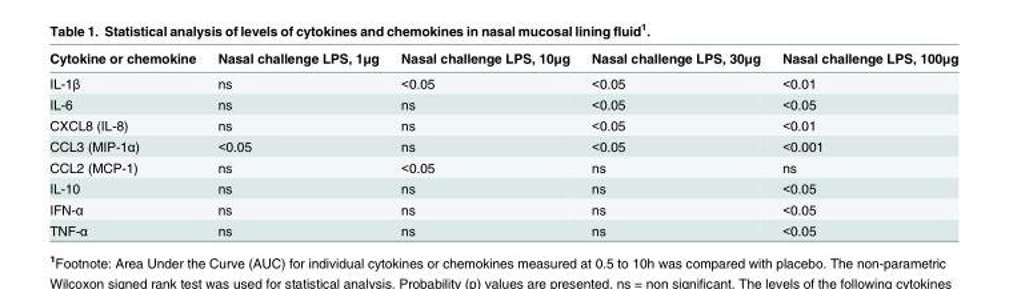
<table><thead><tr><td>Cytokine or chemokine</td><td>Nasal challenge LPS, 1μg</td><td>Nasal challenge LPS, 10μg</td><td>Nasal challenge LPS, 30μg</td><td>Nasal challenge LPS, 100μg</td></tr></thead><tbody><tr><td>IL-1β</td><td>ns</td><td>&lt;0.05</td><td>&lt;0.05</td><td>&lt;0.01</td></tr><tr><td>IL-6</td><td>ns</td><td>ns</td><td>&lt;0.05</td><td>&lt;0.05</td></tr><tr><td>CXCL8 (IL-8)</td><td>ns</td><td>ns</td><td>&lt;0.05</td><td>&lt;0.01</td></tr><tr><td>CCL3 (MIP-1α)</td><td>&lt;0.05</td><td>ns</td><td>&lt;0.05</td><td>&lt;0.001</td></tr><tr><td>CCL2 (MCP-1)</td><td>ns</td><td>&lt;0.05</td><td>ns</td><td>ns</td></tr><tr><td>IL-10</td><td>ns</td><td>ns</td><td>ns</td><td>&lt;0.05</td></tr><tr><td>IFN-α</td><td>ns</td><td>ns</td><td>ns</td><td>&lt;0.05</td></tr><tr><td>TNF-α</td><td>ns</td><td>ns</td><td>ns</td><td>&lt;0.05</td></tr></tbody></table>